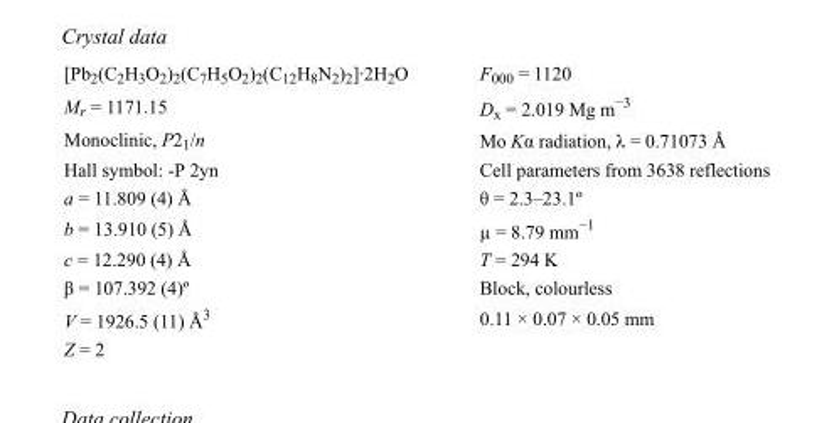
<table><tbody><tr><td>[Pb<sub>2</sub>(C<sub>2</sub>H<sub>3</sub>O<sub>2</sub>)<sub>2</sub>(C<sub>7</sub>H<sub>5</sub>O<sub>2</sub>)<sub>2</sub>(C<sub>12</sub>H<sub>8</sub>N<sub>2</sub>)<sub>2</sub>]·2H<sub>2</sub>O</td><td>F000 = 1120</td></tr><tr><td>M<sub>r</sub> = 1171.15</td><td>D<sub>x</sub> = 2.019 Mg m<sup>−3</sup></td></tr><tr><td>Monoclinic, P2<sub>1</sub>/n</td><td>Mo Kα radiation, λ = 0.71073 Å</td></tr><tr><td>Hall symbol: -P 2yn</td><td>Cell parameters from 3638 reflections</td></tr><tr><td>a = 11.809 (4) Å</td><td>θ = 2.3–23.1º</td></tr><tr><td>b = 13.910 (5) Å</td><td>µ = 8.79 mm<sup>−1</sup></td></tr><tr><td>c = 12.290 (4) Å</td><td>T = 294 K</td></tr><tr><td>β = 107.392 (4)º</td><td>Block, colourless</td></tr><tr><td>V = 1926.5 (11) Å<sup>3</sup></td><td>0.11 × 0.07 × 0.05 mm</td></tr><tr><td>Z = 2</td><td></td></tr></tbody></table>